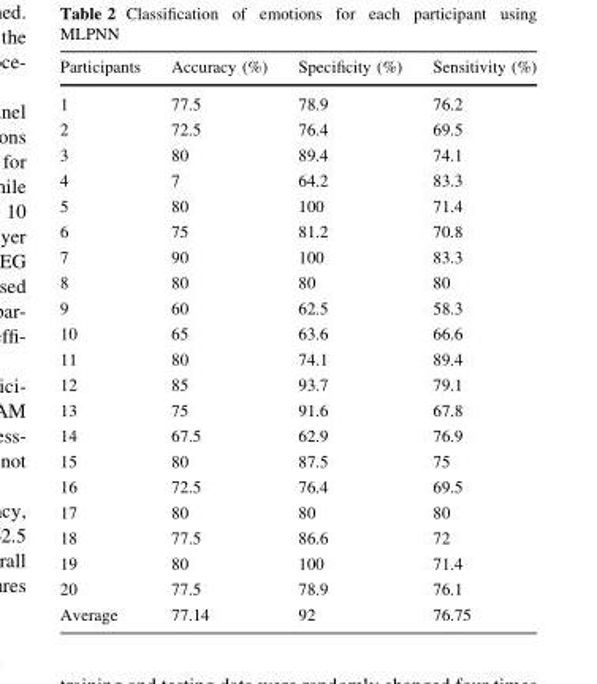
<table><thead><tr><td>Participants</td><td>Accuracy (%)</td><td>Specificity (%)</td><td>Sensitivity (%)</td></tr></thead><tbody><tr><td>1</td><td>77.5</td><td>78.9</td><td>76.2</td></tr><tr><td>2</td><td>72.5</td><td>76.4</td><td>69.5</td></tr><tr><td>3</td><td>80</td><td>89.4</td><td>74.1</td></tr><tr><td>4</td><td>7</td><td>64.2</td><td>83.3</td></tr><tr><td>5</td><td>80</td><td>100</td><td>71.4</td></tr><tr><td>6</td><td>75</td><td>81.2</td><td>70.8</td></tr><tr><td>7</td><td>90</td><td>100</td><td>83.3</td></tr><tr><td>8</td><td>80</td><td>80</td><td>80</td></tr><tr><td>9</td><td>60</td><td>62.5</td><td>58.3</td></tr><tr><td>10</td><td>65</td><td>63.6</td><td>66.6</td></tr><tr><td>11</td><td>80</td><td>74.1</td><td>89.4</td></tr><tr><td>12</td><td>85</td><td>93.7</td><td>79.1</td></tr><tr><td>13</td><td>75</td><td>91.6</td><td>67.8</td></tr><tr><td>14</td><td>67.5</td><td>62.9</td><td>76.9</td></tr><tr><td>15</td><td>80</td><td>87.5</td><td>75</td></tr><tr><td>16</td><td>72.5</td><td>76.4</td><td>69.5</td></tr><tr><td>17</td><td>80</td><td>80</td><td>80</td></tr><tr><td>18</td><td>77.5</td><td>86.6</td><td>72</td></tr><tr><td>19</td><td>80</td><td>100</td><td>71.4</td></tr><tr><td>20</td><td>77.5</td><td>78.9</td><td>76.1</td></tr><tr><td>Average</td><td>77.14</td><td>92</td><td>76.75</td></tr></tbody></table>